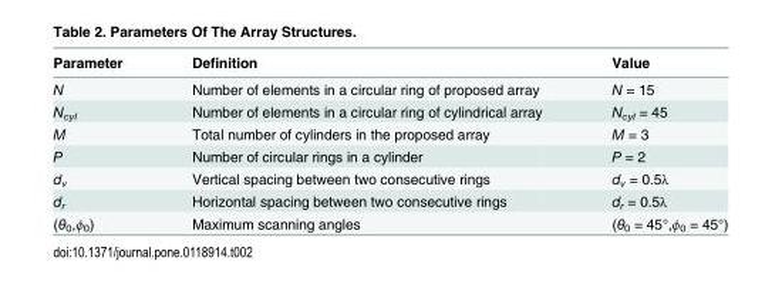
<table><thead><tr><td>Parameter</td><td>Definition</td><td>Value</td></tr></thead><tbody><tr><td>N</td><td>Number of elements in a circular ring of proposed array</td><td>N = 15</td></tr><tr><td>N<sub>cyl</sub></td><td>Number of elements in a circular ring of cylindrical array</td><td>N<sub>cyl</sub> = 45</td></tr><tr><td>M</td><td>Total number of cylinders in the proposed array</td><td>M = 3</td></tr><tr><td>P</td><td>Number of circular rings in a cylinder</td><td>P = 2</td></tr><tr><td>d<sub>v</sub></td><td>Vertical spacing between two consecutive rings</td><td>d<sub>v</sub> = 0.5λ</td></tr><tr><td>d<sub>r</sub></td><td>Horizontal spacing between two consecutive rings</td><td>d<sub>r</sub> = 0.5λ</td></tr><tr><td>(θ<sub>0</sub>,ϕ<sub>0</sub>)</td><td>Maximum scanning angles</td><td>(θ<sub>0</sub> = 45°,ϕ<sub>0</sub> = 45°)</td></tr></tbody></table>